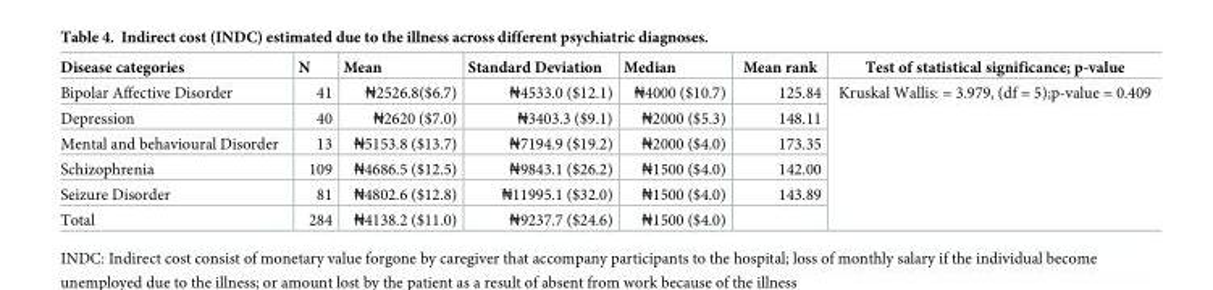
<table><thead><tr><td>Disease categories</td><td>N</td><td>Mean</td><td>Standard Deviation</td><td>Median</td><td>Mean rank</td><td>Test of statistical significance; p-value</td></tr></thead><tbody><tr><td>Bipolar Affective Disorder</td><td>41</td><td>₦2526.8($6.7)</td><td>₦4533.0 ($12.1)</td><td>₦4000 ($10.7)</td><td>125.84</td><td rowspan="6">Kruskal Wallis: = 3.979, (df = 5);p-value = 0.409</td></tr><tr><td>Depression</td><td>40</td><td>₦2620 ($7.0)</td><td>₦3403.3 ($9.1)</td><td>₦2000 ($5.3)</td><td>148.11</td></tr><tr><td>Mental and behavioural Disorder</td><td>13</td><td>₦5153.8 ($13.7)</td><td>₦7194.9 ($19.2)</td><td>₦2000 ($4.0)</td><td>173.35</td></tr><tr><td>Schizophrenia</td><td>109</td><td>₦4686.5 ($12.5)</td><td>₦9843.1 ($26.2)</td><td>₦1500 ($4.0)</td><td>142.00</td></tr><tr><td>Seizure Disorder</td><td>81</td><td>₦4802.6 ($12.8)</td><td>₦11995.1 ($32.0)</td><td>₦1500 ($4.0)</td><td>143.89</td></tr><tr><td>Total</td><td>284</td><td>₦4138.2 ($11.0)</td><td>₦9237.7 ($24.6)</td><td>₦1500 ($4.0)</td><td></td></tr></tbody></table>